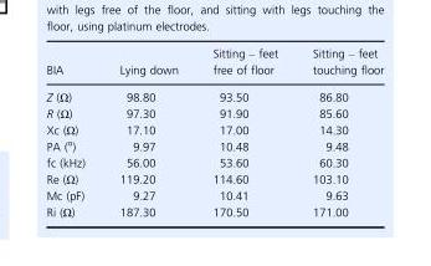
<table><thead><tr><td>BIA</td><td>Lying down</td><td>Sitting – feet free of floor</td><td>Sitting – feet touching floor</td></tr></thead><tbody><tr><td>Z (Ω)</td><td>98.80</td><td>93.50</td><td>86.80</td></tr><tr><td>R (Ω)</td><td>97.30</td><td>91.90</td><td>85.60</td></tr><tr><td>Xc (Ω)</td><td>17.10</td><td>17.00</td><td>14.30</td></tr><tr><td>PA (<sup>o</sup>)</td><td>9.97</td><td>10.48</td><td>9.48</td></tr><tr><td>fc (kHz)</td><td>56.00</td><td>53.60</td><td>60.30</td></tr><tr><td>Re (Ω)</td><td>119.20</td><td>114.60</td><td>103.10</td></tr><tr><td>Mc (pF)</td><td>9.27</td><td>10.41</td><td>9.63</td></tr><tr><td>Ri (Ω)</td><td>187.30</td><td>170.50</td><td>171.00</td></tr></tbody></table>